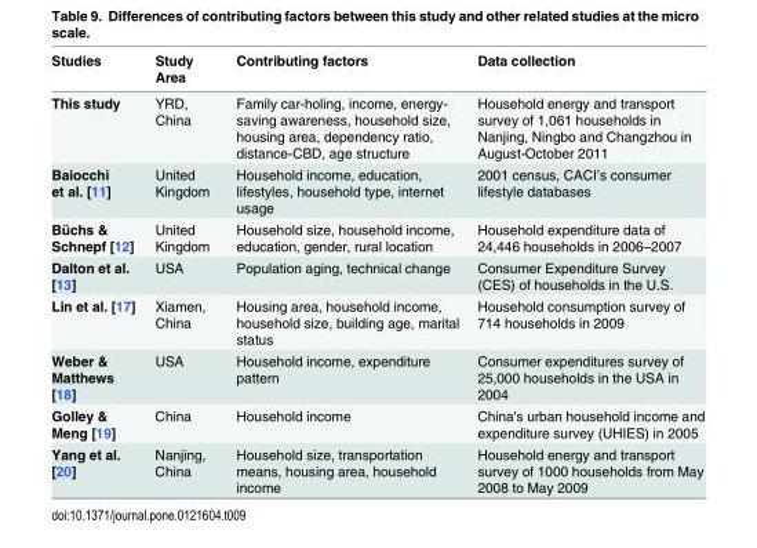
<table><thead><tr><td>Studies</td><td>Study Area</td><td>Contributing factors</td><td>Data collection</td></tr></thead><tbody><tr><td>This study</td><td>YRD, China</td><td>Family car-holing, income, energy- saving awareness, household size, housing area, dependency ratio, distance-CBD, age structure</td><td>Household energy and transport survey of 1,061 households in Nanjing, Ningbo and Changzhou in August-October 2011</td></tr><tr><td>Baiocchi et al. [11]</td><td>United Kingdom</td><td>Household income, education, lifestyles, household type, internet usage</td><td>2001 census, CACI’s consumer lifestyle databases</td></tr><tr><td>Büchs &amp; Schnepf [12]</td><td>United Kingdom</td><td>Household size, household income, education, gender, rural location</td><td>Household expenditure data of 24,446 households in 2006–2007</td></tr><tr><td>Dalton et al. [13]</td><td>USA</td><td>Population aging, technical change</td><td>Consumer Expenditure Survey (CES) of households in the U.S.</td></tr><tr><td>Lin et al. [17]</td><td>Xiamen, China</td><td>Housing area, household income, household size, building age, marital status</td><td>Household consumption survey of 714 households in 2009</td></tr><tr><td>Weber &amp; Matthews [18]</td><td>USA</td><td>Household income, expenditure pattern</td><td>Consumer expenditures survey of 25,000 households in the USA in 2004</td></tr><tr><td>Golley &amp; Meng [19]</td><td>China</td><td>Household income</td><td>China&#x27;s urban household income and expenditure survey (UHIES) in 2005</td></tr><tr><td>Yang et al. [20]</td><td>Nanjing, China</td><td>Household size, transportation means, housing area, household income</td><td>Household energy and transport survey of 1000 households from May 2008 to May 2009</td></tr></tbody></table>